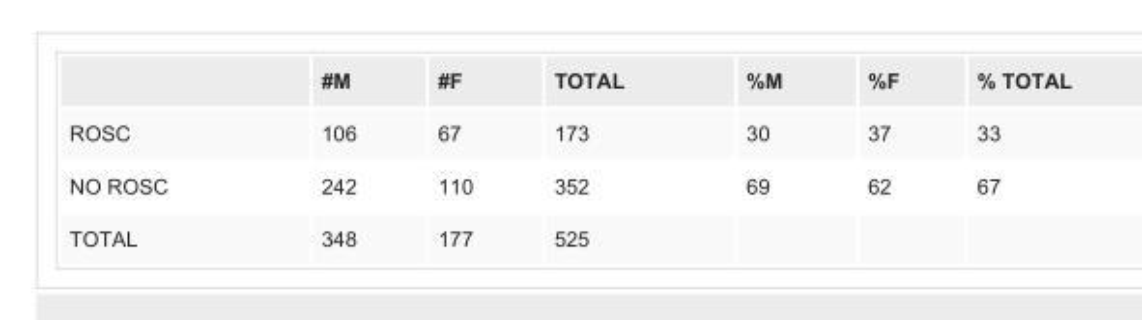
<table><thead><tr><td></td><td>#M</td><td>#F</td><td>TOTAL</td><td>%M</td><td>%F</td><td>% TOTAL</td></tr></thead><tbody><tr><td>ROSC</td><td>106</td><td>67</td><td>173</td><td>30</td><td>37</td><td>33</td></tr><tr><td>NO ROSC</td><td>242</td><td>110</td><td>352</td><td>69</td><td>62</td><td>67</td></tr><tr><td>TOTAL</td><td>348</td><td>177</td><td>525</td><td></td><td></td><td></td></tr></tbody></table>